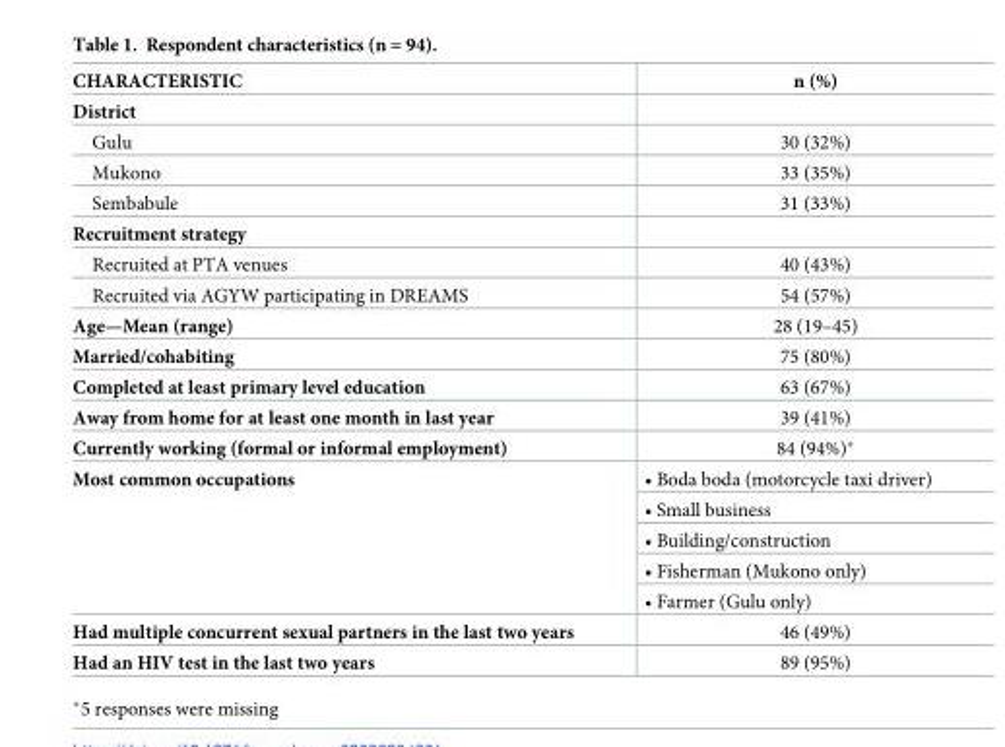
<table><thead><tr><td>CHARACTERISTIC</td><td>n (%)</td></tr></thead><tbody><tr><td colspan="2">District</td></tr><tr><td>Gulu</td><td>30 (32%)</td></tr><tr><td>Mukono</td><td>33 (35%)</td></tr><tr><td>Sembabule</td><td>31 (33%)</td></tr><tr><td colspan="2">Recruitment strategy</td></tr><tr><td>Recruited at PTA venues</td><td>40 (43%)</td></tr><tr><td>Recruited via AGYW participating in DREAMS</td><td>54 (57%)</td></tr><tr><td>Age—Mean (range)</td><td>28 (19–45)</td></tr><tr><td>Married/cohabiting</td><td>75 (80%)</td></tr><tr><td>Completed at least primary level education</td><td>63 (67%)</td></tr><tr><td>Away from home for at least one month in last year</td><td>39 (41%)</td></tr><tr><td>Currently working (formal or informal employment)</td><td>84 (94%)*</td></tr><tr><td rowspan="5">Most common occupations</td><td>• Boda boda (motorcycle taxi driver)</td></tr><tr><td>• Small business</td></tr><tr><td>• Building/construction</td></tr><tr><td>• Fisherman (Mukono only)</td></tr><tr><td>• Farmer (Gulu only)</td></tr><tr><td>Had multiple concurrent sexual partners in the last two years</td><td>46 (49%)</td></tr><tr><td>Had an HIV test in the last two years</td><td>89 (95%)</td></tr></tbody></table>